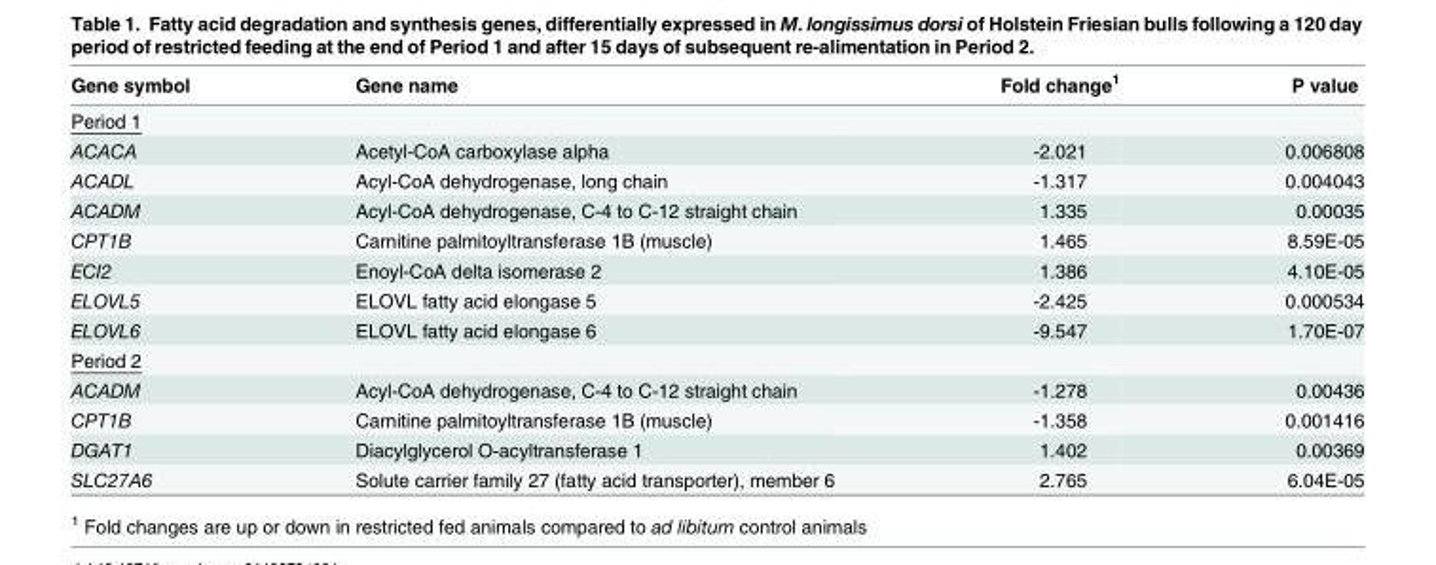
<table><thead><tr><td>Gene symbol</td><td>Gene name</td><td>Fold change<sup>1</sup></td><td>P value</td></tr></thead><tbody><tr><td colspan="4">Period 1</td></tr><tr><td>ACACA</td><td>Acetyl-CoA carboxylase alpha</td><td>-2.021</td><td>0.006808</td></tr><tr><td>ACADL</td><td>Acyl-CoA dehydrogenase, long chain</td><td>-1.317</td><td>0.004043</td></tr><tr><td>ACADM</td><td>Acyl-CoA dehydrogenase, C-4 to C-12 straight chain</td><td>1.335</td><td>0.00035</td></tr><tr><td>CPT1B</td><td>Carnitine palmitoyltransferase 1B (muscle)</td><td>1.465</td><td>8.59E-05</td></tr><tr><td>ECI2</td><td>Enoyl-CoA delta isomerase 2</td><td>1.386</td><td>4.10E-05</td></tr><tr><td>ELOVL5</td><td>ELOVL fatty acid elongase 5</td><td>-2.425</td><td>0.000534</td></tr><tr><td>ELOVL6</td><td>ELOVL fatty acid elongase 6</td><td>-9.547</td><td>1.70E-07</td></tr><tr><td colspan="4">Period 2</td></tr><tr><td>ACADM</td><td>Acyl-CoA dehydrogenase, C-4 to C-12 straight chain</td><td>-1.278</td><td>0.00436</td></tr><tr><td>CPT1B</td><td>Carnitine palmitoyltransferase 1B (muscle)</td><td>-1.358</td><td>0.001416</td></tr><tr><td>DGAT1</td><td>Diacylglycerol O-acyltransferase 1</td><td>1.402</td><td>0.00369</td></tr><tr><td>SLC27A6</td><td>Solute carrier family 27 (fatty acid transporter), member 6</td><td>2.765</td><td>6.04E-05</td></tr></tbody></table>